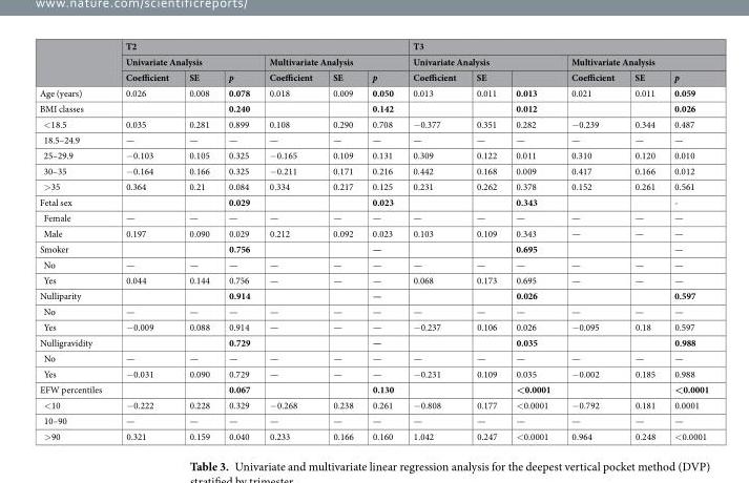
<table><thead><tr><td rowspan="3"></td><td colspan="6">T2</td><td colspan="6">T3</td></tr><tr><td colspan="3">Univariate Analysis</td><td colspan="3">Multivariate Analysis</td><td colspan="3">Univariate Analysis</td><td colspan="3">Multivariate Analysis</td></tr><tr><td>Coefficient</td><td>SE</td><td>p</td><td>Coefficient</td><td>SE</td><td>p</td><td>Coefficient</td><td>SE</td><td></td><td>Coefficient</td><td>SE</td><td>p</td></tr></thead><tbody><tr><td>Age (years)</td><td>0.026</td><td>0.008</td><td>0.078</td><td>0.018</td><td>0.009</td><td>0.050</td><td>0.013</td><td>0.011</td><td>0.013</td><td>0.021</td><td>0.011</td><td>0.059</td></tr><tr><td>BMI classes</td><td></td><td></td><td>0.240</td><td></td><td></td><td>0.142</td><td></td><td></td><td>0.012</td><td></td><td></td><td>0.026</td></tr><tr><td>&lt;18.5</td><td>0.035</td><td>0.281</td><td>0.899</td><td>0.108</td><td>0.290</td><td>0.708</td><td>−0.377</td><td>0.351</td><td>0.282</td><td>−0.239</td><td>0.344</td><td>0.487</td></tr><tr><td>18.5–24.9</td><td>—</td><td>—</td><td>—</td><td>—</td><td>—</td><td>—</td><td>—</td><td>—</td><td>—</td><td>—</td><td>—</td><td>—</td></tr><tr><td>25–29.9</td><td>−0.103</td><td>0.105</td><td>0.325</td><td>−0.165</td><td>0.109</td><td>0.131</td><td>0.309</td><td>0.122</td><td>0.011</td><td>0.310</td><td>0.120</td><td>0.010</td></tr><tr><td>30–35</td><td>−0.164</td><td>0.166</td><td>0.325</td><td>−0.211</td><td>0.171</td><td>0.216</td><td>0.442</td><td>0.168</td><td>0.009</td><td>0.417</td><td>0.166</td><td>0.012</td></tr><tr><td>&gt;35</td><td>0.364</td><td>0.21</td><td>0.084</td><td>0.334</td><td>0.217</td><td>0.125</td><td>0.231</td><td>0.262</td><td>0.378</td><td>0.152</td><td>0.261</td><td>0.561</td></tr><tr><td>Fetal sex</td><td></td><td></td><td>0.029</td><td></td><td></td><td>0.023</td><td></td><td></td><td>0.343</td><td></td><td></td><td>-</td></tr><tr><td>Female</td><td>—</td><td>—</td><td>—</td><td>—</td><td>—</td><td>—</td><td>—</td><td>—</td><td>—</td><td>—</td><td>—</td><td>—</td></tr><tr><td>Male</td><td>0.197</td><td>0.090</td><td>0.029</td><td>0.212</td><td>0.092</td><td>0.023</td><td>0.103</td><td>0.109</td><td>0.343</td><td>—</td><td>—</td><td>—</td></tr><tr><td>Smoker</td><td></td><td></td><td>0.756</td><td></td><td></td><td>—</td><td></td><td></td><td>0.695</td><td></td><td></td><td>—</td></tr><tr><td>No</td><td>—</td><td>—</td><td>—</td><td>—</td><td>—</td><td>—</td><td>—</td><td>—</td><td>—</td><td>—</td><td>—</td><td>—</td></tr><tr><td>Yes</td><td>0.044</td><td>0.144</td><td>0.756</td><td>—</td><td>—</td><td>—</td><td>0.068</td><td>0.173</td><td>0.695</td><td>—</td><td>—</td><td>—</td></tr><tr><td>Nulliparity</td><td></td><td></td><td>0.914</td><td></td><td></td><td>—</td><td></td><td></td><td>0.026</td><td></td><td></td><td>0.597</td></tr><tr><td>No</td><td>—</td><td>—</td><td>—</td><td>—</td><td>—</td><td>—</td><td>—</td><td>—</td><td>—</td><td>—</td><td>—</td><td>—</td></tr><tr><td>Yes</td><td>−0.009</td><td>0.088</td><td>0.914</td><td>—</td><td>—</td><td>—</td><td>−0.237</td><td>0.106</td><td>0.026</td><td>−0.095</td><td>0.18</td><td>0.597</td></tr><tr><td>Nulligravidity</td><td></td><td></td><td>0.729</td><td></td><td></td><td>—</td><td></td><td></td><td>0.035</td><td></td><td></td><td>0.988</td></tr><tr><td>No</td><td>—</td><td>—</td><td>—</td><td>—</td><td>—</td><td>—</td><td>—</td><td>—</td><td>—</td><td>—</td><td>—</td><td>—</td></tr><tr><td>Yes</td><td>−0.031</td><td>0.090</td><td>0.729</td><td>—</td><td>—</td><td>—</td><td>−0.231</td><td>0.109</td><td>0.035</td><td>−0.002</td><td>0.185</td><td>0.988</td></tr><tr><td>EFW percentiles</td><td></td><td></td><td>0.067</td><td></td><td></td><td>0.130</td><td></td><td></td><td>&lt;0.0001</td><td></td><td></td><td>&lt;0.0001</td></tr><tr><td>&lt;10</td><td>−0.222</td><td>0.228</td><td>0.329</td><td>−0.268</td><td>0.238</td><td>0.261</td><td>−0.808</td><td>0.177</td><td>&lt;0.0001</td><td>−0.792</td><td>0.181</td><td>0.0001</td></tr><tr><td>10–90</td><td>—</td><td>—</td><td>—</td><td>—</td><td>—</td><td>—</td><td>—</td><td>—</td><td>—</td><td>—</td><td>—</td><td>—</td></tr><tr><td>&gt;90</td><td>0.321</td><td>0.159</td><td>0.040</td><td>0.233</td><td>0.166</td><td>0.160</td><td>1.042</td><td>0.247</td><td>&lt;0.0001</td><td>0.964</td><td>0.248</td><td>&lt;0.0001</td></tr></tbody></table>